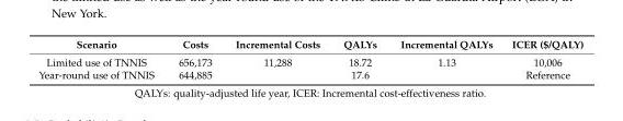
<table><thead><tr><td>Scenario</td><td>Costs</td><td>Incremental Costs</td><td>QALYs</td><td>Incremental QALYs</td><td>ICER ($/QALY)</td></tr></thead><tbody><tr><td>Limited use of TNNIS</td><td>656,173</td><td>11,288</td><td>18.72</td><td>1.13</td><td>10,006</td></tr><tr><td>Year-round use of TNNIS</td><td>644,885</td><td></td><td>17.6</td><td></td><td>Reference</td></tr></tbody></table>